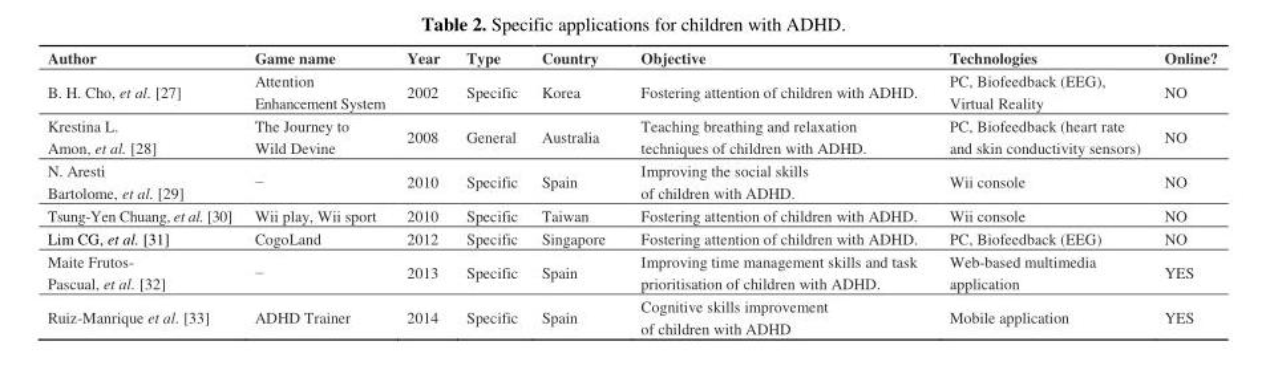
<table><thead><tr><td>Author</td><td>Game name</td><td>Year</td><td>Type</td><td>Country</td><td>Objective</td><td>Technologies</td><td>Online?</td></tr></thead><tbody><tr><td>B. H. Cho, et al. [27]</td><td>Attention Enhancement System</td><td>2002</td><td>Specific</td><td>Korea</td><td>Fostering attention of children with ADHD.</td><td>PC, Biofeedback (EEG), Virtual Reality</td><td>NO</td></tr><tr><td>Krestina L. Amon, et al. [28]</td><td>The Journey to Wild Devine</td><td>2008</td><td>General</td><td>Australia</td><td>Teaching breathing and relaxation techniques of children with ADHD.</td><td>PC, Biofeedback (heart rate and skin conductivity sensors)</td><td>NO</td></tr><tr><td>N. Aresti Bartolome, et al. [29]</td><td>−</td><td>2010</td><td>Specific</td><td>Spain</td><td>Improving the social skills of children with ADHD.</td><td>Wii console</td><td>NO</td></tr><tr><td>Tsung-Yen Chuang, et al. [30]</td><td>Wii play, Wii sport</td><td>2010</td><td>Specific</td><td>Taiwan</td><td>Fostering attention of children with ADHD.</td><td>Wii console</td><td>NO</td></tr><tr><td>Lim CG, et al. [31]</td><td>CogoLand</td><td>2012</td><td>Specific</td><td>Singapore</td><td>Fostering attention of children with ADHD.</td><td>PC, Biofeedback (EEG)</td><td>NO</td></tr><tr><td>Maite Frutos- Pascual, et al. [32]</td><td>−</td><td>2013</td><td>Specific</td><td>Spain</td><td>Improving time management skills and task prioritisation of children with ADHD.</td><td>Web-based multimedia application</td><td>YES</td></tr><tr><td>Ruiz-Manrique et al. [33]</td><td>ADHD Trainer</td><td>2014</td><td>Specific</td><td>Spain</td><td>Cognitive skills improvement of children with ADHD</td><td>Mobile application</td><td>YES</td></tr></tbody></table>